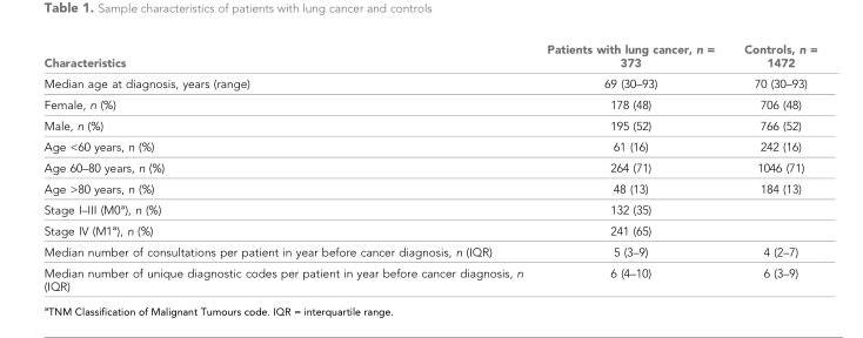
<table><thead><tr><td>Characteristics</td><td>Patients with lung cancer, n = 373</td><td>Controls, n = 1472</td></tr></thead><tbody><tr><td>Median age at diagnosis, years (range)</td><td>69 (30–93)</td><td>70 (30–93)</td></tr><tr><td>Female, n (%)</td><td>178 (48)</td><td>706 (48)</td></tr><tr><td>Male, n (%)</td><td>195 (52)</td><td>766 (52)</td></tr><tr><td>Age &lt;60 years, n (%)</td><td>61 (16)</td><td>242 (16)</td></tr><tr><td>Age 60–80 years, n (%)</td><td>264 (71)</td><td>1046 (71)</td></tr><tr><td>Age &gt;80 years, n (%)</td><td>48 (13)</td><td>184 (13)</td></tr><tr><td>Stage I–III (M0<sup>a</sup>), n (%)</td><td>132 (35)</td><td></td></tr><tr><td>Stage IV (M1<sup>a</sup>), n (%)</td><td>241 (65)</td><td></td></tr><tr><td>Median number of consultations per patient in year before cancer diagnosis, n (IQR)</td><td>5 (3–9)</td><td>4 (2–7)</td></tr><tr><td>Median number of unique diagnostic codes per patient in year before cancer diagnosis, n (IQR)</td><td>6 (4–10)</td><td>6 (3–9)</td></tr></tbody></table>